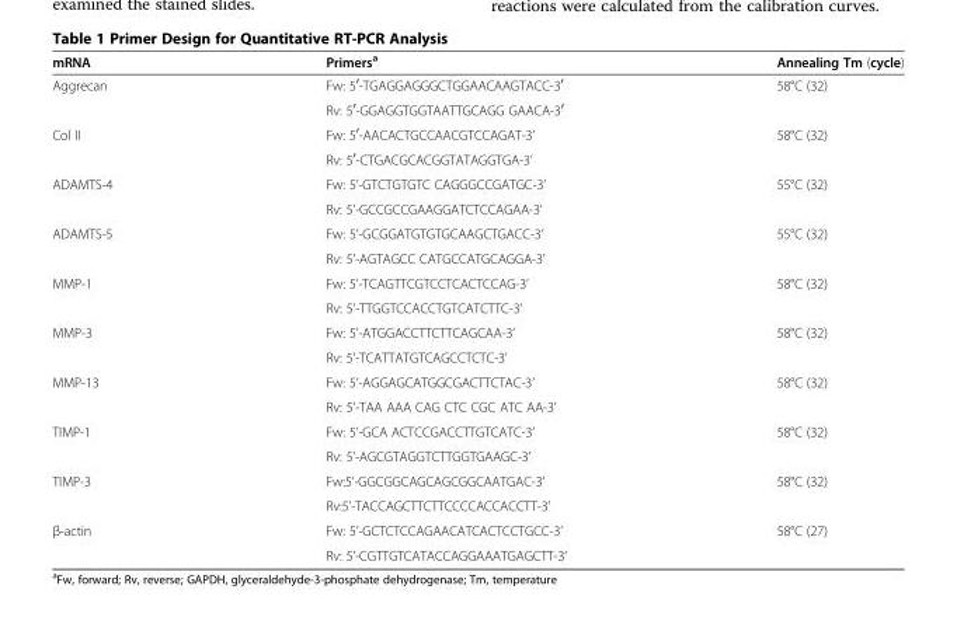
<table><thead><tr><td>mRNA</td><td>Primers<sup>a</sup></td><td>Annealing Tm (cycle)</td></tr></thead><tbody><tr><td rowspan="2">Aggrecan</td><td>Fw: 5<sup>′</sup>-TGAGGAGGGCTGGAACAAGTACC-3<sup>′</sup></td><td>58°C (32)</td></tr><tr><td colspan="2">Rv: 5<sup>′</sup>-GGAGGTGGTAATTGCAGG GAACA-3<sup>′</sup></td></tr><tr><td rowspan="2">Col II</td><td>Fw: 5<sup>′</sup>-AACACTGCCAACGTCCAGAT-3’</td><td>58°C (32)</td></tr><tr><td colspan="2">Rv: 5<sup>′</sup>-CTGACGCACGGTATAGGTGA-3’</td></tr><tr><td rowspan="2">ADAMTS-4</td><td>Fw: 5’-GTCTGTGTC CAGGGCCGATGC-3’</td><td>55°C (32)</td></tr><tr><td colspan="2">Rv: 5’-GCCGCCGAAGGATCTCCAGAA-3’</td></tr><tr><td rowspan="2">ADAMTS-5</td><td>Fw: 5’-GCGGATGTGTGCAAGCTGACC-3’</td><td>55°C (32)</td></tr><tr><td colspan="2">Rv: 5’-AGTAGCC CATGCCATGCAGGA-3’</td></tr><tr><td rowspan="2">MMP-1</td><td>Fw: 5’-TCAGTTCGTCCTCACTCCAG-3’</td><td>58°C (32)</td></tr><tr><td colspan="2">Rv: 5’-TTGGTCCACCTGTCATCTTC-3’</td></tr><tr><td rowspan="2">MMP-3</td><td>Fw: 5’-ATGGACCTTCTTCAGCAA-3’</td><td>58°C (32)</td></tr><tr><td colspan="2">Rv: 5’-TCATTATGTCAGCCTCTC-3’</td></tr><tr><td rowspan="2">MMP-13</td><td>Fw: 5’-AGGAGCATGGCGACTTCTAC-3’</td><td>58°C (32)</td></tr><tr><td colspan="2">Rv: 5’-TAA AAA CAG CTC CGC ATC AA-3’</td></tr><tr><td rowspan="2">TIMP-1</td><td>Fw: 5’-GCA ACTCCGACCTTGTCATC-3’</td><td>58°C (32)</td></tr><tr><td colspan="2">Rv: 5’-AGCGTAGGTCTTGGTGAAGC-3’</td></tr><tr><td rowspan="2">TIMP-3</td><td>Fw:5’-GGCGGCAGCAGCGGCAATGAC-3’</td><td>58°C (32)</td></tr><tr><td colspan="2">Rv:5’-TACCAGCTTCTTCCCCACCACCTT-3’</td></tr><tr><td rowspan="2">β-actin</td><td>Fw: 5’-GCTCTCCAGAACATCACTCCTGCC-3’</td><td>58°C (27)</td></tr><tr><td colspan="2">Rv: 5’-CGTTGTCATACCAGGAAATGAGCTT-3’</td></tr></tbody></table>